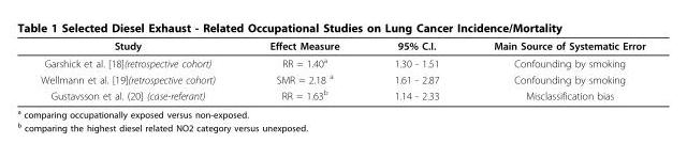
<table><thead><tr><td>Study</td><td>Effect Measure</td><td>95% C.I.</td><td>Main Source of Systematic Error</td></tr></thead><tbody><tr><td>Garshick et al. [18](retrospective cohort)</td><td>RR = 1.40<sup>a</sup></td><td>1.30 - 1.51</td><td>Confounding by smoking</td></tr><tr><td>Wellmann et al. [19](retrospective cohort)</td><td>SMR = 2.18 <sup>a</sup></td><td>1.61 - 2.87</td><td>Confounding by smoking</td></tr><tr><td>Gustavsson et al. (20] (case-referant)</td><td>RR = 1.63<sup>b</sup></td><td>1.14 - 2.33</td><td>Misclassification bias</td></tr></tbody></table>